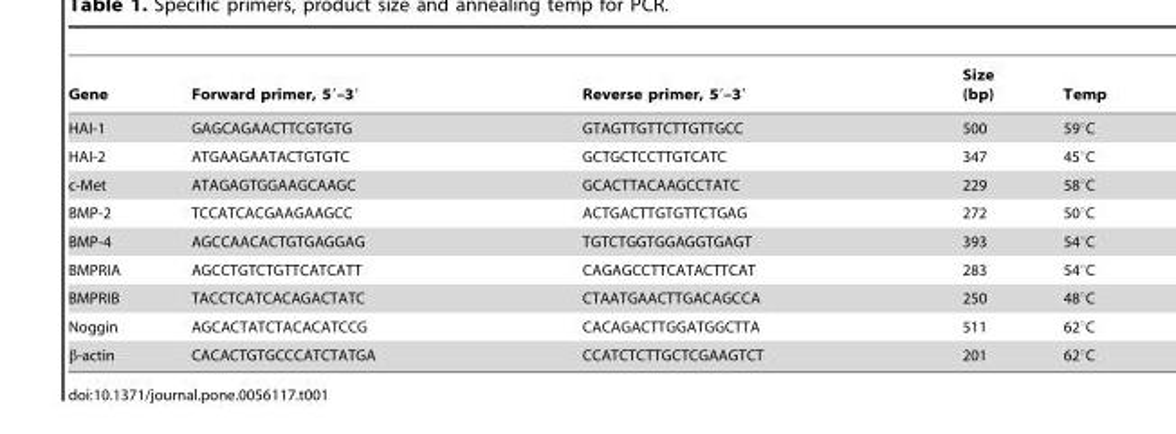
<table><thead><tr><td>Gene</td><td>Forward primer, 5′–3′</td><td>Reverse primer, 5′–3′</td><td>Size (bp)</td><td>Temp</td></tr></thead><tbody><tr><td>HAI-1</td><td>GAGCAGAACTTCGTGTG</td><td>GTAGTTGTTCTTGTTGCC</td><td>500</td><td>59°C</td></tr><tr><td>HAI-2</td><td>ATGAAGAATACTGTGTC</td><td>GCTGCTCCTTGTCATC</td><td>347</td><td>45°C</td></tr><tr><td>c-Met</td><td>ATAGAGTGGAAGCAAGC</td><td>GCACTTACAAGCCTATC</td><td>229</td><td>58°C</td></tr><tr><td>BMP-2</td><td>TCCATCACGAAGAAGCC</td><td>ACTGACTTGTGTTCTGAG</td><td>272</td><td>50°C</td></tr><tr><td>BMP-4</td><td>AGCCAACACTGTGAGGAG</td><td>TGTCTGGTGGAGGTGAGT</td><td>393</td><td>54°C</td></tr><tr><td>BMPRIA</td><td>AGCCTGTCTGTTCATCATT</td><td>CAGAGCCTTCATACTTCAT</td><td>283</td><td>54°C</td></tr><tr><td>BMPRIB</td><td>TACCTCATCACAGACTATC</td><td>CTAATGAACTTGACAGCCA</td><td>250</td><td>48°C</td></tr><tr><td>Noggin</td><td>AGCACTATCTACACATCCG</td><td>CACAGACTTGGATGGCTTA</td><td>511</td><td>62°C</td></tr><tr><td>β-actin</td><td>CACACTGTGCCCATCTATGA</td><td>CCATCTCTTGCTCGAAGTCT</td><td>201</td><td>62°C</td></tr></tbody></table>